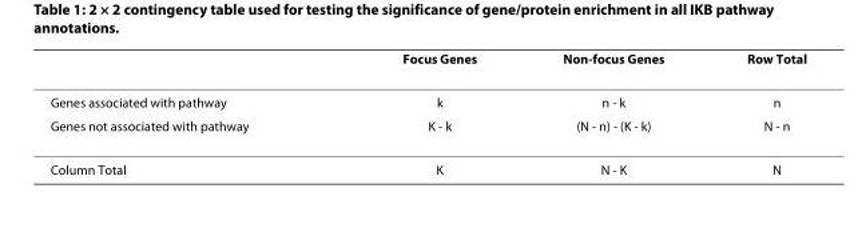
<table><thead><tr><td></td><td>Focus Genes</td><td>Non-focus Genes</td><td>Row Total</td></tr></thead><tbody><tr><td>Genes associated with pathway</td><td>k</td><td>n - k</td><td>n</td></tr><tr><td>Genes not associated with pathway</td><td>K - k</td><td>(N - n) - (K - k)</td><td>N - n</td></tr><tr><td>Column Total</td><td>K</td><td>N - K</td><td>N</td></tr></tbody></table>